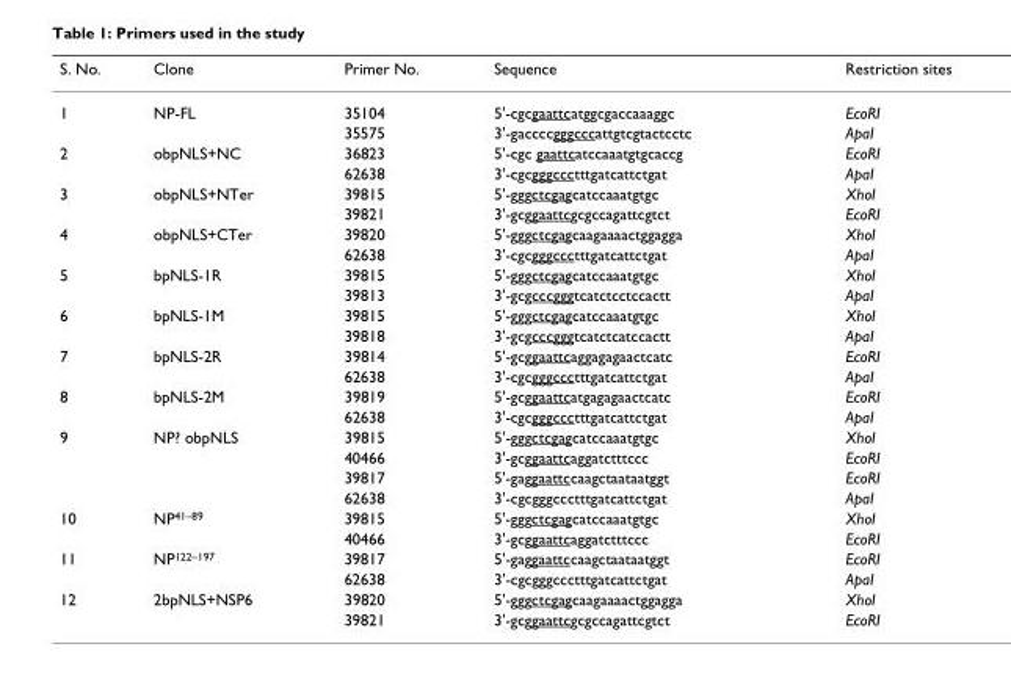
<table><thead><tr><td>S. No.</td><td>Clone</td><td>Primer No.</td><td>Sequence</td><td>Restriction sites</td></tr></thead><tbody><tr><td rowspan="2">1</td><td>NP-FL</td><td>35104</td><td>5&#x27;-cgcgaattcatggcgaccaaaggc</td><td>EcoRI</td></tr><tr><td></td><td>35575</td><td>3&#x27;-gaccccgggcccattgtcgtactcctc</td><td>ApaI</td></tr><tr><td rowspan="2">2</td><td>obpNLS+NC</td><td>36823</td><td>5&#x27;-cgc gaattcatccaaatgtgcaccg</td><td>EcoRI</td></tr><tr><td></td><td>62638</td><td>3&#x27;-cgcgggccctttgatcattctgat</td><td>ApaI</td></tr><tr><td rowspan="2">3</td><td>obpNLS+NTer</td><td>39815</td><td>5&#x27;-gggctcgagcatccaaatgtgc</td><td>XhoI</td></tr><tr><td></td><td>39821</td><td>3&#x27;-gcggaattcgcgccagattcgtct</td><td>EcoRI</td></tr><tr><td rowspan="2">4</td><td>obpNLS+CTer</td><td>39820</td><td>5&#x27;-gggctcgagcaagaaaactggagga</td><td>XhoI</td></tr><tr><td></td><td>62638</td><td>3&#x27;-cgcgggccctttgatcattctgat</td><td>ApaI</td></tr><tr><td rowspan="2">5</td><td>bpNLS-1R</td><td>39815</td><td>5&#x27;-gggctcgagcatccaaatgtgc</td><td>XhoI</td></tr><tr><td></td><td>39813</td><td>3&#x27;-gcgcccgggtcatctcctccactt</td><td>ApaI</td></tr><tr><td rowspan="2">6</td><td>bpNLS-1M</td><td>39815</td><td>5&#x27;-gggctcgagcatccaaatgtgc</td><td>XhoI</td></tr><tr><td></td><td>39818</td><td>3&#x27;-gcgcccgggtcatctcatccactt</td><td>ApaI</td></tr><tr><td rowspan="2">7</td><td>bpNLS-2R</td><td>39814</td><td>5&#x27;-gcggaattcaggagagaactcatc</td><td>EcoRI</td></tr><tr><td></td><td>62638</td><td>3&#x27;-cgcgggccctttgatcattctgat</td><td>ApaI</td></tr><tr><td rowspan="2">8</td><td>bpNLS-2M</td><td>39819</td><td>5&#x27;-gcggaattcatgagagaactcatc</td><td>EcoRI</td></tr><tr><td></td><td>62638</td><td>3&#x27;-cgcgggccctttgatcattctgat</td><td>ApaI</td></tr><tr><td rowspan="4">9</td><td>NP? obpNLS</td><td>39815</td><td>5&#x27;-gggctcgagcatccaaatgtgc</td><td>XhoI</td></tr><tr><td></td><td>40466</td><td>3&#x27;-gcggaattcaggatctttccc</td><td>EcoRI</td></tr><tr><td></td><td>39817</td><td>5&#x27;-gaggaattccaagctaataatggt</td><td>EcoRI</td></tr><tr><td></td><td>62638</td><td>3&#x27;-cgcgggccctttgatcattctgat</td><td>ApaI</td></tr><tr><td rowspan="2">10</td><td>NP<sup>41–89</sup></td><td>39815</td><td>5&#x27;-gggctcgagcatccaaatgtgc</td><td>XhoI</td></tr><tr><td></td><td>40466</td><td>3&#x27;-gcggaattcaggatctttccc</td><td>EcoRI</td></tr><tr><td rowspan="2">11</td><td>NP<sup>122–197</sup></td><td>39817</td><td>5&#x27;-gaggaattccaagctaataatggt</td><td>EcoRI</td></tr><tr><td></td><td>62638</td><td>3&#x27;-cgcgggccctttgatcattctgat</td><td>ApaI</td></tr><tr><td rowspan="2">12</td><td>2bpNLS+NSP6</td><td>39820</td><td>5&#x27;-gggctcgagcaagaaaactggagga</td><td>XhoI</td></tr><tr><td></td><td>39821</td><td>3&#x27;-gcggaattcgcgccagattcgtct</td><td>EcoRI</td></tr></tbody></table>